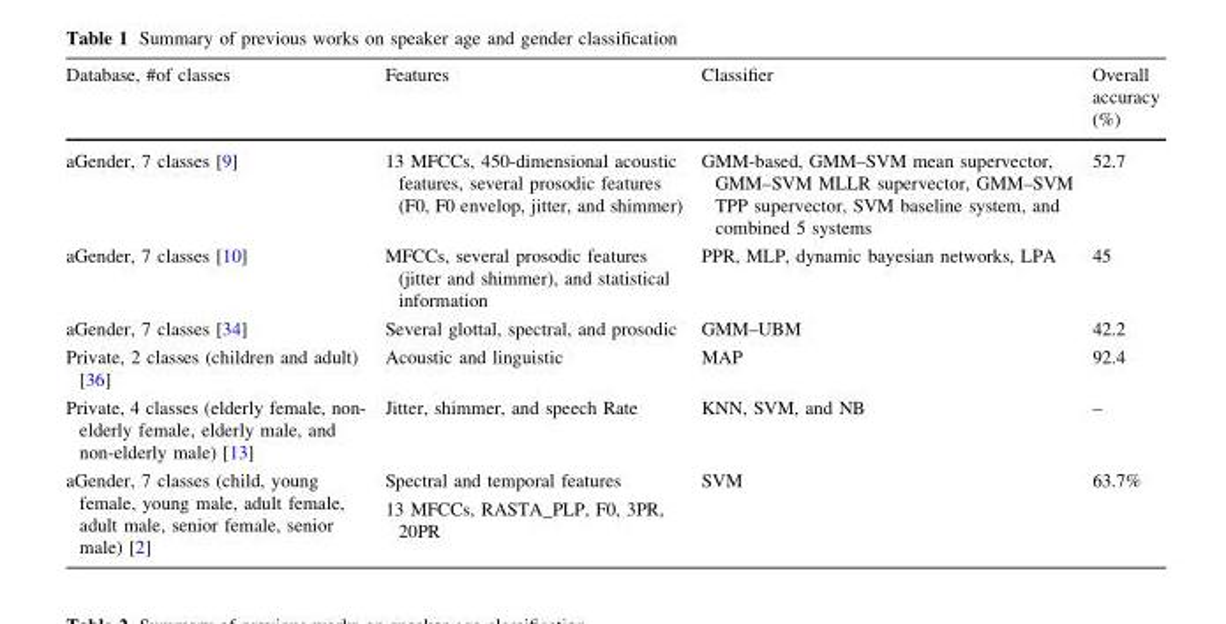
<table><thead><tr><td>Database, #of classes</td><td>Features</td><td>Classifier</td><td>Overall accuracy (%)</td></tr></thead><tbody><tr><td>aGender, 7 classes [9]</td><td>13 MFCCs, 450-dimensional acoustic features, several prosodic features (F0, F0 envelop, jitter, and shimmer)</td><td>GMM-based, GMM–SVM mean supervector, GMM–SVM MLLR supervector, GMM–SVM TPP supervector, SVM baseline system, and combined 5 systems</td><td>52.7</td></tr><tr><td>aGender, 7 classes [10]</td><td>MFCCs, several prosodic features (jitter and shimmer), and statistical information</td><td>PPR, MLP, dynamic bayesian networks, LPA</td><td>45</td></tr><tr><td>aGender, 7 classes [34]</td><td>Several glottal, spectral, and prosodic</td><td>GMM–UBM</td><td>42.2</td></tr><tr><td>Private, 2 classes (children and adult) [36]</td><td>Acoustic and linguistic</td><td>MAP</td><td>92.4</td></tr><tr><td>Private, 4 classes (elderly female, non- elderly female, elderly male, and non-elderly male) [13]</td><td>Jitter, shimmer, and speech Rate</td><td>KNN, SVM, and NB</td><td>–</td></tr><tr><td>aGender, 7 classes (child, young female, young male, adult female, adult male, senior female, senior male) [2]</td><td>Spectral and temporal features 13 MFCCs, RASTA_PLP, F0, 3PR, 20PR</td><td>SVM</td><td>63.7%</td></tr></tbody></table>